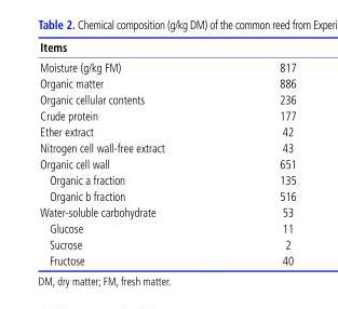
<table><thead><tr><td>Items</td><td></td></tr></thead><tbody><tr><td>Moisture (g/kg FM)</td><td>817</td></tr><tr><td>Organic matter</td><td>886</td></tr><tr><td>Organic cellular contents</td><td>236</td></tr><tr><td>Crude protein</td><td>177</td></tr><tr><td>Ether extract</td><td>42</td></tr><tr><td>Nitrogen cell wall-free extract</td><td>43</td></tr><tr><td>Organic cell wall</td><td>651</td></tr><tr><td>Organic a fraction</td><td>135</td></tr><tr><td>Organic b fraction</td><td>516</td></tr><tr><td>Water-soluble carbohydrate</td><td>53</td></tr><tr><td>Glucose</td><td>11</td></tr><tr><td>Sucrose</td><td>2</td></tr><tr><td>Fructose</td><td>40</td></tr></tbody></table>